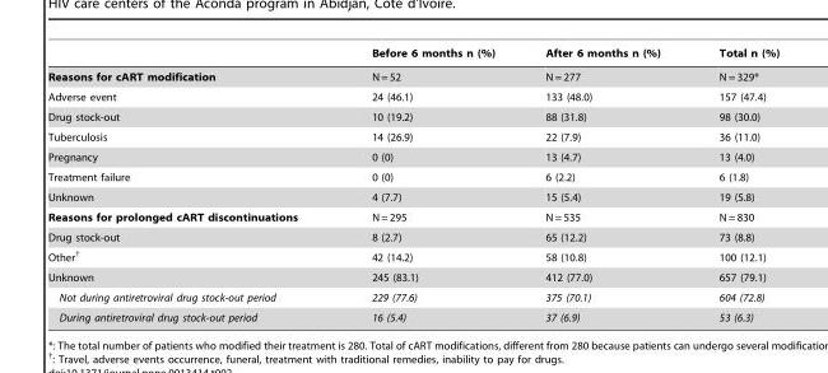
<table><thead><tr><td></td><td>Before 6 months n (%)</td><td>After 6 months n (%)</td><td>Total n (%)</td></tr></thead><tbody><tr><td>Reasons for cART modification</td><td>N = 52</td><td>N = 277</td><td>N = 329*</td></tr><tr><td>Adverse event</td><td>24 (46.1)</td><td>133 (48.0)</td><td>157 (47.4)</td></tr><tr><td>Drug stock-out</td><td>10 (19.2)</td><td>88 (31.8)</td><td>98 (30.0)</td></tr><tr><td>Tuberculosis</td><td>14 (26.9)</td><td>22 (7.9)</td><td>36 (11.0)</td></tr><tr><td>Pregnancy</td><td>0 (0)</td><td>13 (4.7)</td><td>13 (4.0)</td></tr><tr><td>Treatment failure</td><td>0 (0)</td><td>6 (2.2)</td><td>6 (1.8)</td></tr><tr><td>Unknown</td><td>4 (7.7)</td><td>15 (5.4)</td><td>19 (5.8)</td></tr><tr><td>Reasons for prolonged cART discontinuations</td><td>N = 295</td><td>N = 535</td><td>N = 830</td></tr><tr><td>Drug stock-out</td><td>8 (2.7)</td><td>65 (12.2)</td><td>73 (8.8)</td></tr><tr><td>Other†</td><td>42 (14.2)</td><td>58 (10.8)</td><td>100 (12.1)</td></tr><tr><td>Unknown</td><td>245 (83.1)</td><td>412 (77.0)</td><td>657 (79.1)</td></tr><tr><td>Not during antiretroviral drug stock-out period</td><td>229 (77.6)</td><td>375 (70.1)</td><td>604 (72.8)</td></tr><tr><td>During antiretroviral drug stock-out period</td><td>16 (5.4)</td><td>37 (6.9)</td><td>53 (6.3)</td></tr></tbody></table>